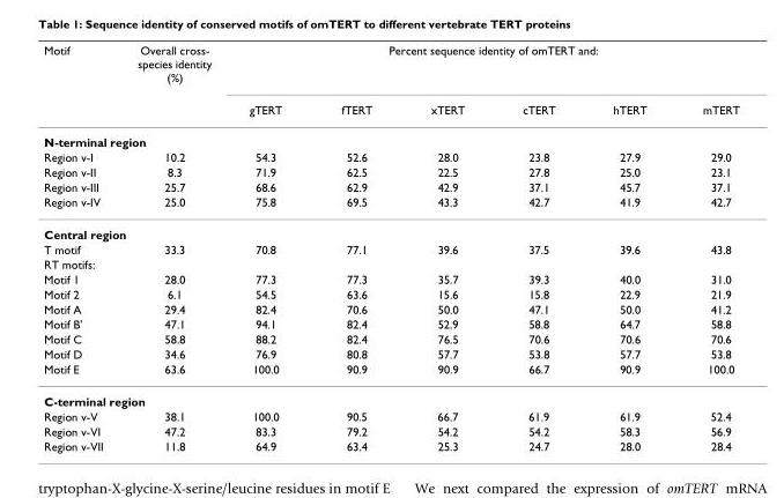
<table><thead><tr><td rowspan="2">Motif</td><td rowspan="2">Overall cross- species identity (%)</td><td colspan="6">Percent sequence identity of omTERT and:</td></tr><tr><td>gTERT</td><td>fTERT</td><td>xTERT</td><td>cTERT</td><td>hTERT</td><td>mTERT</td></tr></thead><tbody><tr><td colspan="8">N-terminal region</td></tr><tr><td>Region v-I</td><td>10.2</td><td>54.3</td><td>52.6</td><td>28.0</td><td>23.8</td><td>27.9</td><td>29.0</td></tr><tr><td>Region v-II</td><td>8.3</td><td>71.9</td><td>62.5</td><td>22.5</td><td>27.8</td><td>25.0</td><td>23.1</td></tr><tr><td>Region v-III</td><td>25.7</td><td>68.6</td><td>62.9</td><td>42.9</td><td>37.1</td><td>45.7</td><td>37.1</td></tr><tr><td>Region v-IV</td><td>25.0</td><td>75.8</td><td>69.5</td><td>43.3</td><td>42.7</td><td>41.9</td><td>42.7</td></tr><tr><td colspan="8">Central region</td></tr><tr><td>T motif</td><td>33.3</td><td>70.8</td><td>77.1</td><td>39.6</td><td>37.5</td><td>39.6</td><td>43.8</td></tr><tr><td colspan="8">RT motifs:</td></tr><tr><td>Motif 1</td><td>28.0</td><td>77.3</td><td>77.3</td><td>35.7</td><td>39.3</td><td>40.0</td><td>31.0</td></tr><tr><td>Motif 2</td><td>6.1</td><td>54.5</td><td>63.6</td><td>15.6</td><td>15.8</td><td>22.9</td><td>21.9</td></tr><tr><td>Motif A</td><td>29.4</td><td>82.4</td><td>70.6</td><td>50.0</td><td>47.1</td><td>50.0</td><td>41.2</td></tr><tr><td>Motif B&#x27;</td><td>47.1</td><td>94.1</td><td>82.4</td><td>52.9</td><td>58.8</td><td>64.7</td><td>58.8</td></tr><tr><td>Motif C</td><td>58.8</td><td>88.2</td><td>82.4</td><td>76.5</td><td>70.6</td><td>70.6</td><td>70.6</td></tr><tr><td>Motif D</td><td>34.6</td><td>76.9</td><td>80.8</td><td>57.7</td><td>53.8</td><td>57.7</td><td>53.8</td></tr><tr><td>Motif E</td><td>63.6</td><td>100.0</td><td>90.9</td><td>90.9</td><td>66.7</td><td>90.9</td><td>100.0</td></tr><tr><td colspan="8">C-terminal region</td></tr><tr><td>Region v-V</td><td>38.1</td><td>100.0</td><td>90.5</td><td>66.7</td><td>61.9</td><td>61.9</td><td>52.4</td></tr><tr><td>Region v-VI</td><td>47.2</td><td>83.3</td><td>79.2</td><td>54.2</td><td>54.2</td><td>58.3</td><td>56.9</td></tr><tr><td>Region v-VII</td><td>11.8</td><td>64.9</td><td>63.4</td><td>25.3</td><td>24.7</td><td>28.0</td><td>28.4</td></tr></tbody></table>